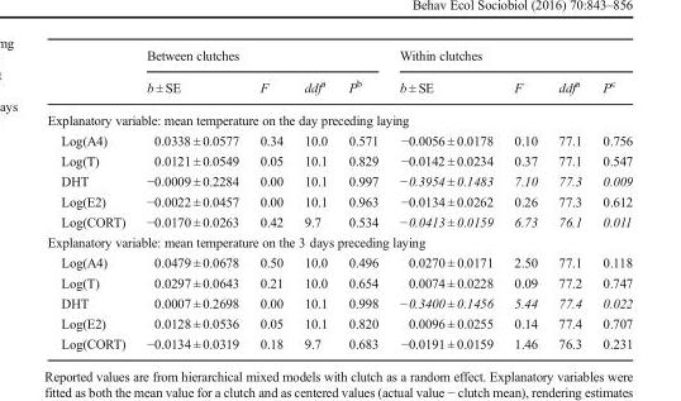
<table><thead><tr><td rowspan="2"></td><td colspan="4">Between clutches</td><td colspan="4">Within clutches</td></tr><tr><td>b ± SE</td><td>F</td><td>ddf<sup>a</sup></td><td>P<sup>b</sup></td><td>b ± SE</td><td>F</td><td>ddf<sup>a</sup></td><td>P<sup>c</sup></td></tr></thead><tbody><tr><td colspan="9">Explanatory variable: mean temperature on the day preceding laying</td></tr><tr><td>Log(A4)</td><td>0.0338 ± 0.0577</td><td>0.34</td><td>10.0</td><td>0.571</td><td>−0.0056 ± 0.0178</td><td>0.10</td><td>77.1</td><td>0.756</td></tr><tr><td>Log(T)</td><td>0.0121 ± 0.0549</td><td>0.05</td><td>10.1</td><td>0.829</td><td>−0.0142 ± 0.0234</td><td>0.37</td><td>77.1</td><td>0.547</td></tr><tr><td>DHT</td><td>−0.0009 ± 0.2284</td><td>0.00</td><td>10.1</td><td>0.997</td><td>−0.3954 ± 0.1483</td><td>7.10</td><td>77.3</td><td>0.009</td></tr><tr><td>Log(E2)</td><td>−0.0022 ± 0.0457</td><td>0.00</td><td>10.1</td><td>0.963</td><td>−0.0134 ± 0.0262</td><td>0.26</td><td>77.3</td><td>0.612</td></tr><tr><td>Log(CORT)</td><td>−0.0170 ± 0.0263</td><td>0.42</td><td>9.7</td><td>0.534</td><td>−0.0413 ± 0.0159</td><td>6.73</td><td>76.1</td><td>0.011</td></tr><tr><td colspan="9">Explanatory variable: mean temperature on the 3 days preceding laying</td></tr><tr><td>Log(A4)</td><td>0.0479 ± 0.0678</td><td>0.50</td><td>10.0</td><td>0.496</td><td>0.0270 ± 0.0171</td><td>2.50</td><td>77.1</td><td>0.118</td></tr><tr><td>Log(T)</td><td>0.0297 ± 0.0643</td><td>0.21</td><td>10.0</td><td>0.654</td><td>0.0074 ± 0.0228</td><td>0.09</td><td>77.2</td><td>0.747</td></tr><tr><td>DHT</td><td>0.0007 ± 0.2698</td><td>0.00</td><td>10.1</td><td>0.998</td><td>−0.3400 ± 0.1456</td><td>5.44</td><td>77.4</td><td>0.022</td></tr><tr><td>Log(E2)</td><td>0.0128 ± 0.0536</td><td>0.05</td><td>10.1</td><td>0.820</td><td>0.0096 ± 0.0255</td><td>0.14</td><td>77.4</td><td>0.707</td></tr><tr><td>Log(CORT)</td><td>−0.0134 ± 0.0319</td><td>0.18</td><td>9.7</td><td>0.683</td><td>−0.0191 ± 0.0159</td><td>1.46</td><td>76.3</td><td>0.231</td></tr></tbody></table>